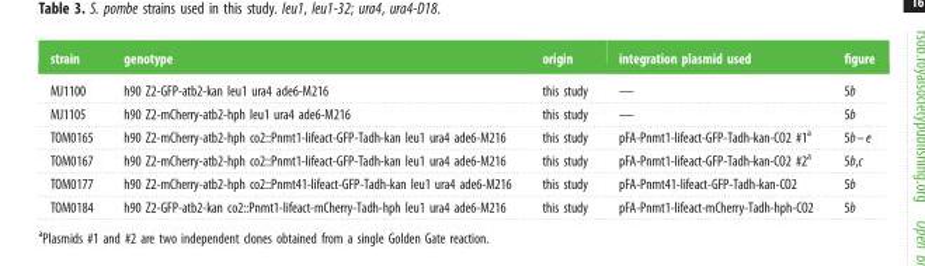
<table><thead><tr><td>strain</td><td>genotype</td><td>origin</td><td>integration plasmid used</td><td>figure</td></tr></thead><tbody><tr><td>MJ1100</td><td>h90 Z2-GFP-atb2-kan leu1 ura4 ade6-M216</td><td>this study</td><td>—</td><td>5b</td></tr><tr><td>MJ1105</td><td>h90 Z2-mCherry-atb2-hph leu1 ura4 ade6-M216</td><td>this study</td><td>—</td><td>5b</td></tr><tr><td>TOM0165</td><td>h90 Z2-mCherry-atb2-hph co2::Pnmt1-lifeact-GFP-Tadh-kan leu1 ura4 ade6-M216</td><td>this study</td><td>pFA-Pnmt1-lifeact-GFP-Tadh-kan-CO2 #1<sup>a</sup></td><td>5b–e</td></tr><tr><td>TOM0167</td><td>h90 Z2-mCherry-atb2-hph co2::Pnmt1-lifeact-GFP-Tadh-kan leu1 ura4 ade6-M216</td><td>this study</td><td>pFA-Pnmt1-lifeact-GFP-Tadh-kan-CO2 #2<sup>a</sup></td><td>5b,c</td></tr><tr><td>TOM0177</td><td>h90 Z2-mCherry-atb2-hph co2::Pnmt41-lifeact-GFP-Tadh-kan leu1 ura4 ade6-M216</td><td>this study</td><td>pFA-Pnmt41-lifeact-GFP-Tadh-kan-CO2</td><td>5b</td></tr><tr><td>TOM0184</td><td>h90 Z2-GFP-atb2-kan co2::Pnmt1-lifeact-mCherry-Tadh-hph leu1 ura4 ade6-M216</td><td>this study</td><td>pFA-Pnmt1-lifeact-mCherry-Tadh-hph-CO2</td><td>5b</td></tr></tbody></table>